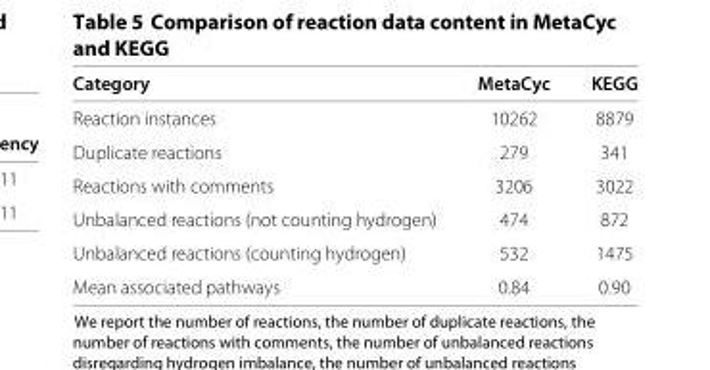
<table><thead><tr><td>Category</td><td>MetaCyc</td><td>KEGG</td></tr></thead><tbody><tr><td>Reaction instances</td><td>10262</td><td>8879</td></tr><tr><td>Duplicate reactions</td><td>279</td><td>341</td></tr><tr><td>Reactions with comments</td><td>3206</td><td>3022</td></tr><tr><td>Unbalanced reactions (not counting hydrogen)</td><td>474</td><td>872</td></tr><tr><td>Unbalanced reactions (counting hydrogen)</td><td>532</td><td>1475</td></tr><tr><td>Mean associated pathways</td><td>0.84</td><td>0.90</td></tr></tbody></table>